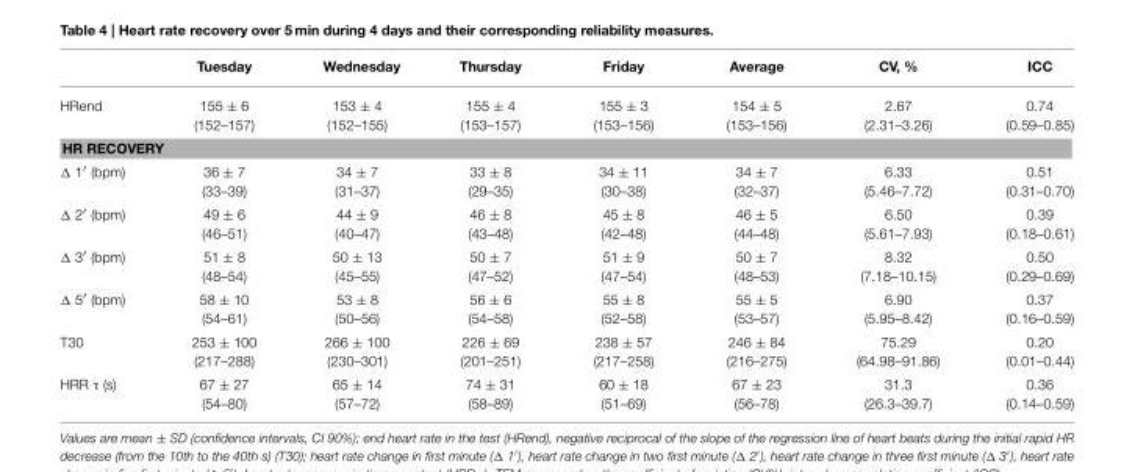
<table><thead><tr><td></td><td>Tuesday</td><td>Wednesday</td><td>Thursday</td><td>Friday</td><td>Average</td><td>CV, %</td><td>ICC</td></tr></thead><tbody><tr><td>HRend</td><td>155 ± 6 (152–157)</td><td>153 ± 4 (152–155)</td><td>155 ± 4 (153–157)</td><td>155 ± 3 (153–156)</td><td>154 ± 5 (153–156)</td><td>2.67 (2.31–3.26)</td><td>0.74 (0.59–0.85)</td></tr><tr><td colspan="8">HR RECOVERY</td></tr><tr><td>Δ 1′ (bpm)</td><td>36 ± 7 (33–39)</td><td>34 ± 7 (31–37)</td><td>33 ± 8 (29–35)</td><td>34 ± 11 (30–38)</td><td>34 ± 7 (32–37)</td><td>6.33 (5.46–7.72)</td><td>0.51 (0.31–0.70)</td></tr><tr><td>Δ 2′ (bpm)</td><td>49 ± 6 (46–51)</td><td>44 ± 9 (40–47)</td><td>46 ± 8 (43–48)</td><td>45 ± 8 (42–48)</td><td>46 ± 5 (44–48)</td><td>6.50 (5.61–7.93)</td><td>0.39 (0.18–0.61)</td></tr><tr><td>Δ 3′ (bpm)</td><td>51 ± 8 (48–54)</td><td>50 ± 13 (45–55)</td><td>50 ± 7 (47–52)</td><td>51 ± 9 (47–54)</td><td>50 ± 7 (48–53)</td><td>8.32 (7.18–10.15)</td><td>0.50 (0.29–0.69)</td></tr><tr><td>Δ 5′ (bpm)</td><td>58 ± 10 (54–61)</td><td>53 ± 8 (50–56)</td><td>56 ± 6 (54–58)</td><td>55 ± 8 (52–58)</td><td>55 ± 5 (53–57)</td><td>6.90 (5.95–8.42)</td><td>0.37 (0.16–0.59)</td></tr><tr><td>T30</td><td>253 ± 100 (217–288)</td><td>266 ± 100 (230–301)</td><td>226 ± 69 (201–251)</td><td>238 ± 57 (217–258)</td><td>246 ± 84 (216–275)</td><td>75.29 (64.98–91.86)</td><td>0.20 (0.01–0.44)</td></tr><tr><td>HRR τ (s)</td><td>67 ± 27 (54–80)</td><td>65 ± 14 (57–72)</td><td>74 ± 31 (58–89)</td><td>60 ± 18 (51–69)</td><td>67 ± 23 (56–78)</td><td>31.3 (26.3–39.7)</td><td>0.36 (0.14–0.59)</td></tr></tbody></table>